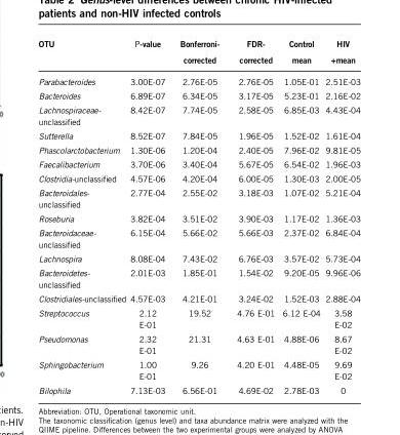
<table><thead><tr><td>OTU</td><td>P-value</td><td>Bonferroni- corrected</td><td>FDR- corrected</td><td>Control mean</td><td>HIV +mean</td></tr></thead><tbody><tr><td>Parabacteroides</td><td>3.00E-07</td><td>2.76E-05</td><td>2.76E-05</td><td>1.05E-01</td><td>2.51E-03</td></tr><tr><td>Bacteroides</td><td>6.89E-07</td><td>6.34E-05</td><td>3.17E-05</td><td>5.23E-01</td><td>2.16E-02</td></tr><tr><td>Lachnospiraceae- unclassified</td><td>8.42E-07</td><td>7.74E-05</td><td>2.58E-05</td><td>6.85E-03</td><td>4.43E-04</td></tr><tr><td>Sutterella</td><td>8.52E-07</td><td>7.84E-05</td><td>1.96E-05</td><td>1.52E-02</td><td>1.61E-04</td></tr><tr><td>Phascolarctobacterium</td><td>1.30E-06</td><td>1.20E-04</td><td>2.40E-05</td><td>7.96E-02</td><td>9.81E-05</td></tr><tr><td>Faecalibacterium</td><td>3.70E-06</td><td>3.40E-04</td><td>5.67E-05</td><td>6.54E-02</td><td>1.96E-03</td></tr><tr><td>Clostridia-unclassified</td><td>4.57E-06</td><td>4.20E-04</td><td>6.00E-05</td><td>1.30E-03</td><td>2.00E-05</td></tr><tr><td>Bacteroidales- unclassified</td><td>2.77E-04</td><td>2.55E-02</td><td>3.18E-03</td><td>1.07E-02</td><td>5.21E-04</td></tr><tr><td>Roseburia</td><td>3.82E-04</td><td>3.51E-02</td><td>3.90E-03</td><td>1.17E-02</td><td>1.36E-03</td></tr><tr><td>Bacteroidaceae- unclassified</td><td>6.15E-04</td><td>5.66E-02</td><td>5.66E-03</td><td>2.37E-02</td><td>6.84E-04</td></tr><tr><td>Lachnospira</td><td>8.08E-04</td><td>7.43E-02</td><td>6.76E-03</td><td>3.57E-02</td><td>5.73E-04</td></tr><tr><td>Bacteroidetes- unclassified</td><td>2.01E-03</td><td>1.85E-01</td><td>1.54E-02</td><td>9.20E-05</td><td>9.96E-06</td></tr><tr><td>Clostridiales-unclassified</td><td>4.57E-03</td><td>4.21E-01</td><td>3.24E-02</td><td>1.52E-03</td><td>2.88E-04</td></tr><tr><td>Streptococcus</td><td>2.12 E-01</td><td>19.52</td><td>4.76 E-01</td><td>6.12 E-04</td><td>3.58 E-02</td></tr><tr><td>Pseudomonas</td><td>2.32 E-01</td><td>21.31</td><td>4.63 E-01</td><td>4.88E-06</td><td>8.67 E-02</td></tr><tr><td>Sphingobacterium</td><td>1.00 E-01</td><td>9.26</td><td>4.20 E-01</td><td>4.48E-05</td><td>9.69 E-02</td></tr><tr><td>Bilophila</td><td>7.13E-03</td><td>6.56E-01</td><td>4.69E-02</td><td>2.78E-03</td><td>0</td></tr></tbody></table>